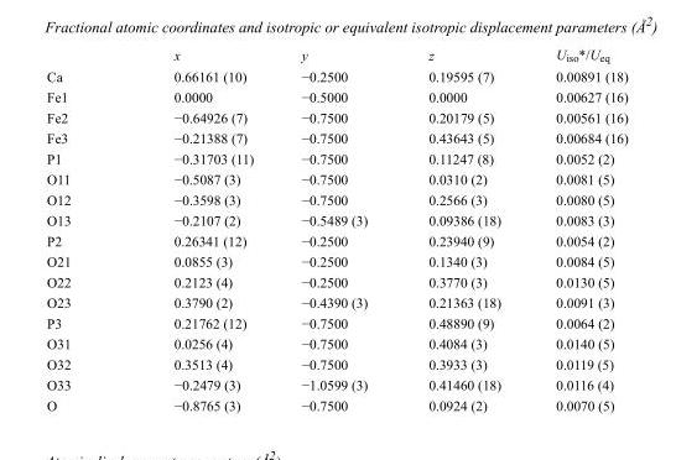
<table><thead><tr><td></td><td>x</td><td>y</td><td>z</td><td>U<sub>iso</sub>*/U<sub>eq</sub></td></tr></thead><tbody><tr><td>Ca</td><td>0.66161 (10)</td><td>−0.2500</td><td>0.19595 (7)</td><td>0.00891 (18)</td></tr><tr><td>Fe1</td><td>0.0000</td><td>−0.5000</td><td>0.0000</td><td>0.00627 (16)</td></tr><tr><td>Fe2</td><td>−0.64926 (7)</td><td>−0.7500</td><td>0.20179 (5)</td><td>0.00561 (16)</td></tr><tr><td>Fe3</td><td>−0.21388 (7)</td><td>−0.7500</td><td>0.43643 (5)</td><td>0.00684 (16)</td></tr><tr><td>P1</td><td>−0.31703 (11)</td><td>−0.7500</td><td>0.11247 (8)</td><td>0.0052 (2)</td></tr><tr><td>O11</td><td>−0.5087 (3)</td><td>−0.7500</td><td>0.0310 (2)</td><td>0.0081 (5)</td></tr><tr><td>O12</td><td>−0.3598 (3)</td><td>−0.7500</td><td>0.2566 (3)</td><td>0.0080 (5)</td></tr><tr><td>O13</td><td>−0.2107 (2)</td><td>−0.5489 (3)</td><td>0.09386 (18)</td><td>0.0083 (3)</td></tr><tr><td>P2</td><td>0.26341 (12)</td><td>−0.2500</td><td>0.23940 (9)</td><td>0.0054 (2)</td></tr><tr><td>O21</td><td>0.0855 (3)</td><td>−0.2500</td><td>0.1340 (3)</td><td>0.0084 (5)</td></tr><tr><td>O22</td><td>0.2123 (4)</td><td>−0.2500</td><td>0.3770 (3)</td><td>0.0130 (5)</td></tr><tr><td>O23</td><td>0.3790 (2)</td><td>−0.4390 (3)</td><td>0.21363 (18)</td><td>0.0091 (3)</td></tr><tr><td>P3</td><td>0.21762 (12)</td><td>−0.7500</td><td>0.48890 (9)</td><td>0.0064 (2)</td></tr><tr><td>O31</td><td>0.0256 (4)</td><td>−0.7500</td><td>0.4084 (3)</td><td>0.0140 (5)</td></tr><tr><td>O32</td><td>0.3513 (4)</td><td>−0.7500</td><td>0.3933 (3)</td><td>0.0119 (5)</td></tr><tr><td>O33</td><td>−0.2479 (3)</td><td>−1.0599 (3)</td><td>0.41460 (18)</td><td>0.0116 (4)</td></tr><tr><td>O</td><td>−0.8765 (3)</td><td>−0.7500</td><td>0.0924 (2)</td><td>0.0070 (5)</td></tr></tbody></table>